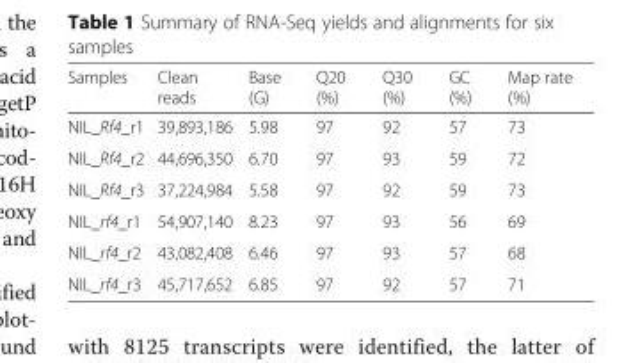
<table><thead><tr><td>Samples</td><td>Clean reads</td><td>Base (G)</td><td>Q20 (%)</td><td>Q30 (%)</td><td>GC (%)</td><td>Map rate (%)</td></tr></thead><tbody><tr><td>NIL_Rf4_r1</td><td>39,893,186</td><td>5.98</td><td>97</td><td>92</td><td>57</td><td>73</td></tr><tr><td>NIL_Rf4_r2</td><td>44,696,350</td><td>6.70</td><td>97</td><td>93</td><td>59</td><td>72</td></tr><tr><td>NIL_Rf4_r3</td><td>37,224,984</td><td>5.58</td><td>97</td><td>92</td><td>59</td><td>73</td></tr><tr><td>NIL_rf4_r1</td><td>54,907,140</td><td>8.23</td><td>97</td><td>93</td><td>56</td><td>69</td></tr><tr><td>NIL_rf4_r2</td><td>43,082,408</td><td>6.46</td><td>97</td><td>93</td><td>57</td><td>68</td></tr><tr><td>NIL_rf4_r3</td><td>45,717,652</td><td>6.85</td><td>97</td><td>92</td><td>57</td><td>71</td></tr></tbody></table>